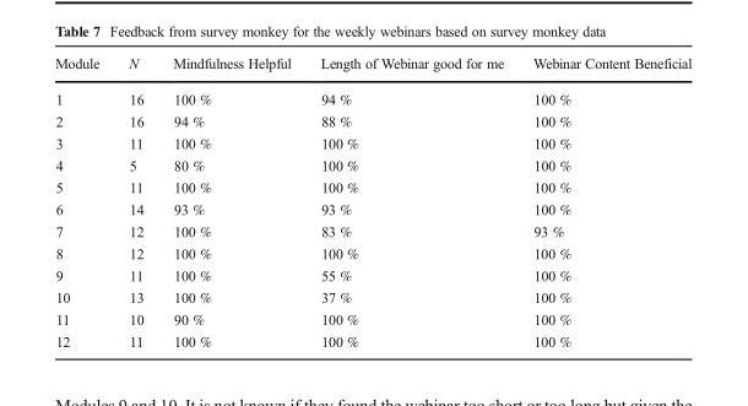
<table><thead><tr><td>Module</td><td>N</td><td>Mindfulness Helpful</td><td>Length of Webinar good for me</td><td>Webinar Content Beneficial</td></tr></thead><tbody><tr><td>1</td><td>16</td><td>100 %</td><td>94 %</td><td>100 %</td></tr><tr><td>2</td><td>16</td><td>94 %</td><td>88 %</td><td>100 %</td></tr><tr><td>3</td><td>11</td><td>100 %</td><td>100 %</td><td>100 %</td></tr><tr><td>4</td><td>5</td><td>80 %</td><td>100 %</td><td>100 %</td></tr><tr><td>5</td><td>11</td><td>100 %</td><td>100 %</td><td>100 %</td></tr><tr><td>6</td><td>14</td><td>93 %</td><td>93 %</td><td>100 %</td></tr><tr><td>7</td><td>12</td><td>100 %</td><td>83 %</td><td>93 %</td></tr><tr><td>8</td><td>12</td><td>100 %</td><td>100 %</td><td>100 %</td></tr><tr><td>9</td><td>11</td><td>100 %</td><td>55 %</td><td>100 %</td></tr><tr><td>10</td><td>13</td><td>100 %</td><td>37 %</td><td>100 %</td></tr><tr><td>11</td><td>10</td><td>90 %</td><td>100 %</td><td>100 %</td></tr><tr><td>12</td><td>11</td><td>100 %</td><td>100 %</td><td>100 %</td></tr></tbody></table>